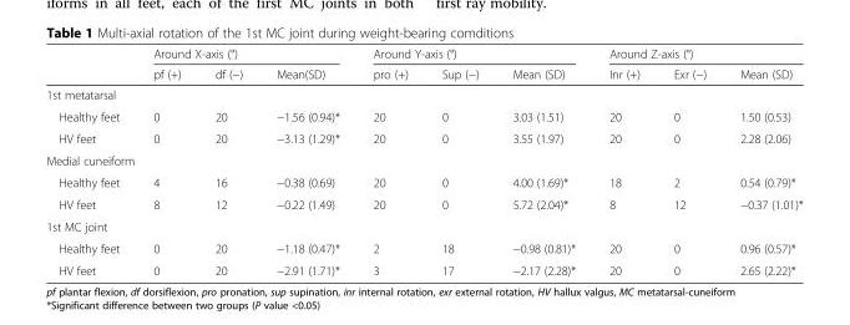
<table><thead><tr><td rowspan="2"></td><td colspan="3">Around X-axis (°)</td><td colspan="3">Around Y-axis (°)</td><td colspan="3">Around Z-axis (°)</td></tr><tr><td>pf (+)</td><td>df (−)</td><td>Mean(SD)</td><td>pro (+)</td><td>Sup (−)</td><td>Mean (SD)</td><td>Inr (+)</td><td>Exr (−)</td><td>Mean (SD)</td></tr></thead><tbody><tr><td colspan="10">1st metatarsal</td></tr><tr><td>Healthy feet</td><td>0</td><td>20</td><td>−1.56 (0.94)*</td><td>20</td><td>0</td><td>3.03 (1.51)</td><td>20</td><td>0</td><td>1.50 (0.53)</td></tr><tr><td>HV feet</td><td>0</td><td>20</td><td>−3.13 (1.29)*</td><td>20</td><td>0</td><td>3.55 (1.97)</td><td>20</td><td>0</td><td>2.28 (2.06)</td></tr><tr><td colspan="10">Medial cuneiform</td></tr><tr><td>Healthy feet</td><td>4</td><td>16</td><td>−0.38 (0.69)</td><td>20</td><td>0</td><td>4.00 (1.69)*</td><td>18</td><td>2</td><td>0.54 (0.79)*</td></tr><tr><td>HV feet</td><td>8</td><td>12</td><td>−0.22 (1.49)</td><td>20</td><td>0</td><td>5.72 (2.04)*</td><td>8</td><td>12</td><td>−0.37 (1.01)*</td></tr><tr><td colspan="10">1st MC joint</td></tr><tr><td>Healthy feet</td><td>0</td><td>20</td><td>−1.18 (0.47)*</td><td>2</td><td>18</td><td>−0.98 (0.81)*</td><td>20</td><td>0</td><td>0.96 (0.57)*</td></tr><tr><td>HV feet</td><td>0</td><td>20</td><td>−2.91 (1.71)*</td><td>3</td><td>17</td><td>−2.17 (2.28)*</td><td>20</td><td>0</td><td>2.65 (2.22)*</td></tr></tbody></table>